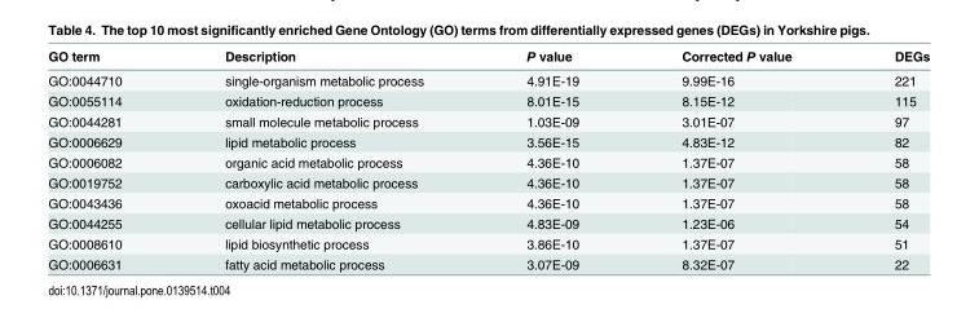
<table><thead><tr><td>GO term</td><td>Description</td><td>P value</td><td>Corrected P value</td><td>DEGs</td></tr></thead><tbody><tr><td>GO:0044710</td><td>single-organism metabolic process</td><td>4.91E-19</td><td>9.99E-16</td><td>221</td></tr><tr><td>GO:0055114</td><td>oxidation-reduction process</td><td>8.01E-15</td><td>8.15E-12</td><td>115</td></tr><tr><td>GO:0044281</td><td>small molecule metabolic process</td><td>1.03E-09</td><td>3.01E-07</td><td>97</td></tr><tr><td>GO:0006629</td><td>lipid metabolic process</td><td>3.56E-15</td><td>4.83E-12</td><td>82</td></tr><tr><td>GO:0006082</td><td>organic acid metabolic process</td><td>4.36E-10</td><td>1.37E-07</td><td>58</td></tr><tr><td>GO:0019752</td><td>carboxylic acid metabolic process</td><td>4.36E-10</td><td>1.37E-07</td><td>58</td></tr><tr><td>GO:0043436</td><td>oxoacid metabolic process</td><td>4.36E-10</td><td>1.37E-07</td><td>58</td></tr><tr><td>GO:0044255</td><td>cellular lipid metabolic process</td><td>4.83E-09</td><td>1.23E-06</td><td>54</td></tr><tr><td>GO:0008610</td><td>lipid biosynthetic process</td><td>3.86E-10</td><td>1.37E-07</td><td>51</td></tr><tr><td>GO:0006631</td><td>fatty acid metabolic process</td><td>3.07E-09</td><td>8.32E-07</td><td>22</td></tr></tbody></table>